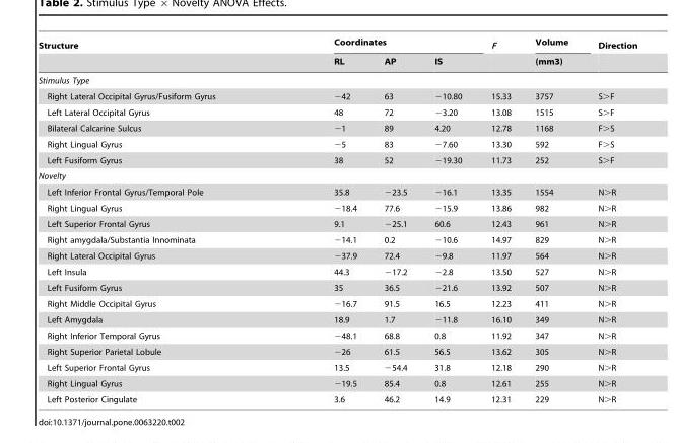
<table><thead><tr><td rowspan="2">Structure</td><td colspan="3">Coordinates</td><td rowspan="2">F</td><td rowspan="2">Volume (mm3)</td><td rowspan="2">Direction</td></tr><tr><td>RL</td><td>AP</td><td>IS</td></tr></thead><tbody><tr><td colspan="7">Stimulus Type</td></tr><tr><td>Right Lateral Occipital Gyrus/Fusiform Gyrus</td><td>−42</td><td>63</td><td>−10.80</td><td>15.33</td><td>3757</td><td>S&gt;F</td></tr><tr><td>Left Lateral Occipital Gyrus</td><td>48</td><td>72</td><td>−3.20</td><td>13.08</td><td>1515</td><td>S&gt;F</td></tr><tr><td>Bilateral Calcarine Sulcus</td><td>−1</td><td>89</td><td>4.20</td><td>12.78</td><td>1168</td><td>F&gt;S</td></tr><tr><td>Right Lingual Gyrus</td><td>−5</td><td>83</td><td>−7.60</td><td>13.30</td><td>592</td><td>F&gt;S</td></tr><tr><td>Left Fusiform Gyrus</td><td>38</td><td>52</td><td>−19.30</td><td>11.73</td><td>252</td><td>S&gt;F</td></tr><tr><td colspan="7">Novelty</td></tr><tr><td>Left Inferior Frontal Gyrus/Temporal Pole</td><td>35.8</td><td>−23.5</td><td>−16.1</td><td>13.35</td><td>1554</td><td>N&gt;R</td></tr><tr><td>Right Lingual Gyrus</td><td>−18.4</td><td>77.6</td><td>−15.9</td><td>13.86</td><td>982</td><td>N&gt;R</td></tr><tr><td>Left Superior Frontal Gyrus</td><td>9.1</td><td>−25.1</td><td>60.6</td><td>12.43</td><td>961</td><td>N&gt;R</td></tr><tr><td>Right amygdala/Substantia Innominata</td><td>−14.1</td><td>0.2</td><td>−10.6</td><td>14.97</td><td>829</td><td>N&gt;R</td></tr><tr><td>Right Lateral Occipital Gyrus</td><td>−37.9</td><td>72.4</td><td>−9.8</td><td>11.97</td><td>564</td><td>N&gt;R</td></tr><tr><td>Left Insula</td><td>44.3</td><td>−17.2</td><td>−2.8</td><td>13.50</td><td>527</td><td>N&gt;R</td></tr><tr><td>Left Fusiform Gyrus</td><td>35</td><td>36.5</td><td>−21.6</td><td>13.92</td><td>507</td><td>N&gt;R</td></tr><tr><td>Right Middle Occipital Gyrus</td><td>−16.7</td><td>91.5</td><td>16.5</td><td>12.23</td><td>411</td><td>N&gt;R</td></tr><tr><td>Left Amygdala</td><td>18.9</td><td>1.7</td><td>−11.8</td><td>16.10</td><td>349</td><td>N&gt;R</td></tr><tr><td>Right Inferior Temporal Gyrus</td><td>−48.1</td><td>68.8</td><td>0.8</td><td>11.92</td><td>347</td><td>N&gt;R</td></tr><tr><td>Right Superior Parietal Lobule</td><td>−26</td><td>61.5</td><td>56.5</td><td>13.62</td><td>305</td><td>N&gt;R</td></tr><tr><td>Left Superior Frontal Gyrus</td><td>13.5</td><td>−54.4</td><td>31.8</td><td>12.18</td><td>290</td><td>N&gt;R</td></tr><tr><td>Right Lingual Gyrus</td><td>−19.5</td><td>85.4</td><td>0.8</td><td>12.61</td><td>255</td><td>N&gt;R</td></tr><tr><td>Left Posterior Cingulate</td><td>3.6</td><td>46.2</td><td>14.9</td><td>12.31</td><td>229</td><td>N&gt;R</td></tr></tbody></table>